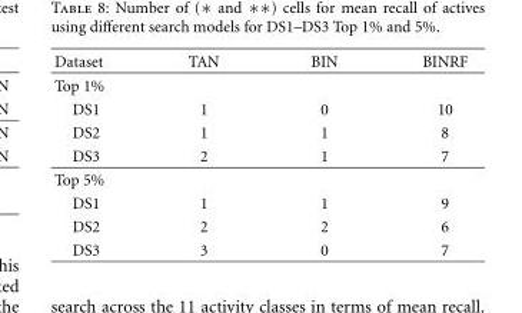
<table><thead><tr><td>Dataset</td><td>TAN</td><td>BIN</td><td>BINRF</td></tr></thead><tbody><tr><td colspan="4">Top 1%</td></tr><tr><td>DS1</td><td>1</td><td>0</td><td>10</td></tr><tr><td>DS2</td><td>1</td><td>1</td><td>8</td></tr><tr><td>DS3</td><td>2</td><td>1</td><td>7</td></tr><tr><td colspan="4">Top 5%</td></tr><tr><td>DS1</td><td>1</td><td>1</td><td>9</td></tr><tr><td>DS2</td><td>2</td><td>2</td><td>6</td></tr><tr><td>DS3</td><td>3</td><td>0</td><td>7</td></tr></tbody></table>